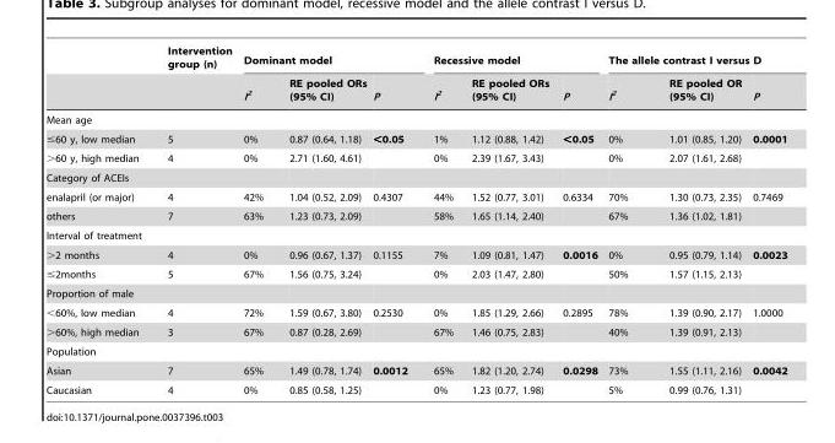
<table><thead><tr><td rowspan="2"></td><td rowspan="2">Intervention group (n)</td><td colspan="3">Dominant model</td><td colspan="3">Recessive model</td><td colspan="3">The allele contrast I versus D</td></tr><tr><td>I<sup>2</sup></td><td>RE pooled ORs (95% CI)</td><td>P</td><td>I<sup>2</sup></td><td>RE pooled ORs (95% CI)</td><td>P</td><td>I<sup>2</sup></td><td>RE pooled OR (95% CI)</td><td>P</td></tr></thead><tbody><tr><td colspan="11">Mean age</td></tr><tr><td>≤60 y, low median</td><td>5</td><td>0%</td><td>0.87 (0.64, 1.18)</td><td>&lt;0.05</td><td>1%</td><td>1.12 (0.88, 1.42)</td><td>&lt;0.05</td><td>0%</td><td>1.01 (0.85, 1.20)</td><td>0.0001</td></tr><tr><td>&gt;60 y, high median</td><td>4</td><td>0%</td><td>2.71 (1.60, 4.61)</td><td></td><td>0%</td><td>2.39 (1.67, 3.43)</td><td></td><td>0%</td><td>2.07 (1.61, 2.68)</td><td></td></tr><tr><td colspan="11">Category of ACEIs</td></tr><tr><td>enalapril (or major)</td><td>4</td><td>42%</td><td>1.04 (0.52, 2.09)</td><td>0.4307</td><td>44%</td><td>1.52 (0.77, 3.01)</td><td>0.6334</td><td>70%</td><td>1.30 (0.73, 2.35)</td><td>0.7469</td></tr><tr><td>others</td><td>7</td><td>63%</td><td>1.23 (0.73, 2.09)</td><td></td><td>58%</td><td>1.65 (1.14, 2.40)</td><td></td><td>67%</td><td>1.36 (1.02, 1.81)</td><td></td></tr><tr><td colspan="11">Interval of treatment</td></tr><tr><td>&gt;2 months</td><td>4</td><td>0%</td><td>0.96 (0.67, 1.37)</td><td>0.1155</td><td>7%</td><td>1.09 (0.81, 1.47)</td><td>0.0016</td><td>0%</td><td>0.95 (0.79, 1.14)</td><td>0.0023</td></tr><tr><td>≤2months</td><td>5</td><td>67%</td><td>1.56 (0.75, 3.24)</td><td></td><td>0%</td><td>2.03 (1.47, 2.80)</td><td></td><td>50%</td><td>1.57 (1.15, 2.13)</td><td></td></tr><tr><td colspan="11">Proportion of male</td></tr><tr><td>&lt;60%, low median</td><td>4</td><td>72%</td><td>1.59 (0.67, 3.80)</td><td>0.2530</td><td>0%</td><td>1.85 (1.29, 2.66)</td><td>0.2895</td><td>78%</td><td>1.39 (0.90, 2.17)</td><td>1.0000</td></tr><tr><td>&gt;60%, high median</td><td>3</td><td>67%</td><td>0.87 (0.28, 2.69)</td><td></td><td>67%</td><td>1.46 (0.75, 2.83)</td><td></td><td>40%</td><td>1.39 (0.91, 2.13)</td><td></td></tr><tr><td colspan="11">Population</td></tr><tr><td>Asian</td><td>7</td><td>65%</td><td>1.49 (0.78, 1.74)</td><td>0.0012</td><td>65%</td><td>1.82 (1.20, 2.74)</td><td>0.0298</td><td>73%</td><td>1.55 (1.11, 2.16)</td><td>0.0042</td></tr><tr><td>Caucasian</td><td>4</td><td>0%</td><td>0.85 (0.58, 1.25)</td><td></td><td>0%</td><td>1.23 (0.77, 1.98)</td><td></td><td>5%</td><td>0.99 (0.76, 1.31)</td><td></td></tr></tbody></table>